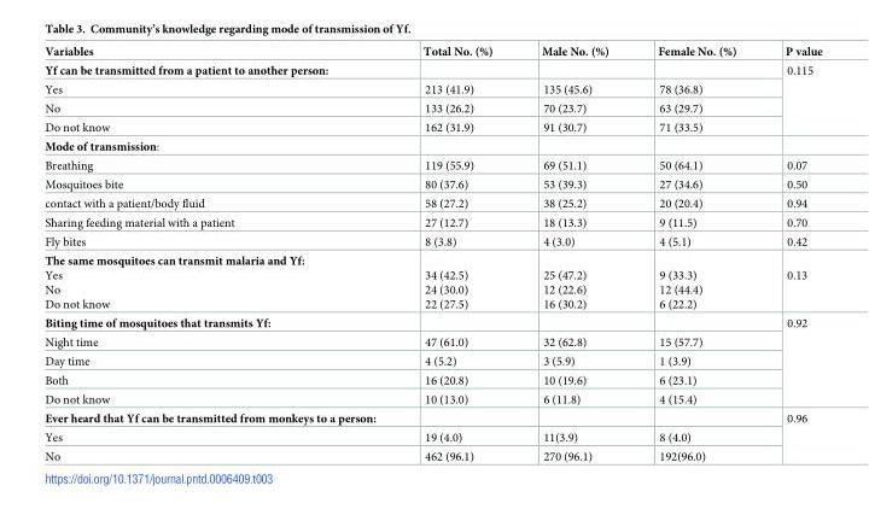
<table><thead><tr><td>Variables</td><td>Total No. (%)</td><td>Male No. (%)</td><td>Female No. (%)</td><td>P value</td></tr></thead><tbody><tr><td colspan="4">Yf can be transmitted from a patient to another person:</td><td rowspan="4">0.115</td></tr><tr><td>Yes</td><td>213 (41.9)</td><td>135 (45.6)</td><td>78 (36.8)</td></tr><tr><td>No</td><td>133 (26.2)</td><td>70 (23.7)</td><td>63 (29.7)</td></tr><tr><td>Do not know</td><td>162 (31.9)</td><td>91 (30.7)</td><td>71 (33.5)</td></tr><tr><td colspan="5">Mode of transmission:</td></tr><tr><td>Breathing</td><td>119 (55.9)</td><td>69 (51.1)</td><td>50 (64.1)</td><td>0.07</td></tr><tr><td>Mosquitoes bite</td><td>80 (37.6)</td><td>53 (39.3)</td><td>27 (34.6)</td><td>0.50</td></tr><tr><td>contact with a patient/body fluid</td><td>58 (27.2)</td><td>38 (25.2)</td><td>20 (20.4)</td><td>0.94</td></tr><tr><td>Sharing feeding material with a patient</td><td>27 (12.7)</td><td>18 (13.3)</td><td>9 (11.5)</td><td>0.70</td></tr><tr><td>Fly bites</td><td>8 (3.8)</td><td>4 (3.0)</td><td>4 (5.1)</td><td>0.42</td></tr><tr><td>The same mosquitoes can transmit malaria and Yf: Yes No Do not know</td><td>34 (42.5) 24 (30.0) 22 (27.5)</td><td>25 (47.2) 12 (22.6) 16 (30.2)</td><td>9 (33.3) 12 (44.4) 6 (22.2)</td><td>0.13</td></tr><tr><td colspan="4">Biting time of mosquitoes that transmits Yf:</td><td rowspan="5">0.92</td></tr><tr><td>Night time</td><td>47 (61.0)</td><td>32 (62.8)</td><td>15 (57.7)</td></tr><tr><td>Day time</td><td>4 (5.2)</td><td>3 (5.9)</td><td>1 (3.9)</td></tr><tr><td>Both</td><td>16 (20.8)</td><td>10 (19.6)</td><td>6 (23.1)</td></tr><tr><td>Do not know</td><td>10 (13.0)</td><td>6 (11.8)</td><td>4 (15.4)</td></tr><tr><td colspan="4">Ever heard that Yf can be transmitted from monkeys to a person:</td><td rowspan="3">0.96</td></tr><tr><td>Yes</td><td>19 (4.0)</td><td>11(3.9)</td><td>8 (4.0)</td></tr><tr><td>No</td><td>462 (96.1)</td><td>270 (96.1)</td><td>192(96.0)</td></tr></tbody></table>